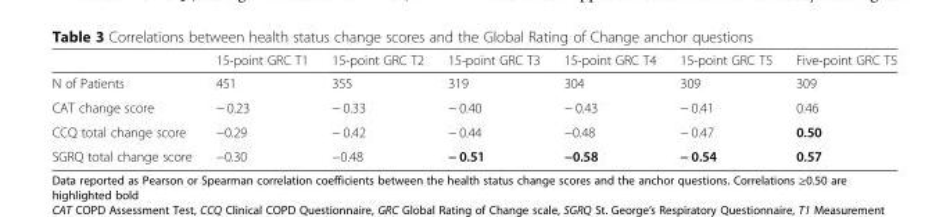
<table><thead><tr><td></td><td>15-point GRC T1</td><td>15-point GRC T2</td><td>15-point GRC T3</td><td>15-point GRC T4</td><td>15-point GRC T5</td><td>Five-point GRC T5</td></tr></thead><tbody><tr><td>N of Patients</td><td>451</td><td>355</td><td>319</td><td>304</td><td>309</td><td>309</td></tr><tr><td>CAT change score</td><td>− 0.23</td><td>− 0.33</td><td>− 0.40</td><td>− 0.43</td><td>− 0.41</td><td>0.46</td></tr><tr><td>CCQ total change score</td><td>−0.29</td><td>− 0.42</td><td>− 0.44</td><td>−0.48</td><td>− 0.47</td><td>0.50</td></tr><tr><td>SGRQ total change score</td><td>−0.30</td><td>−0.48</td><td>− 0.51</td><td>−0.58</td><td>− 0.54</td><td>0.57</td></tr></tbody></table>